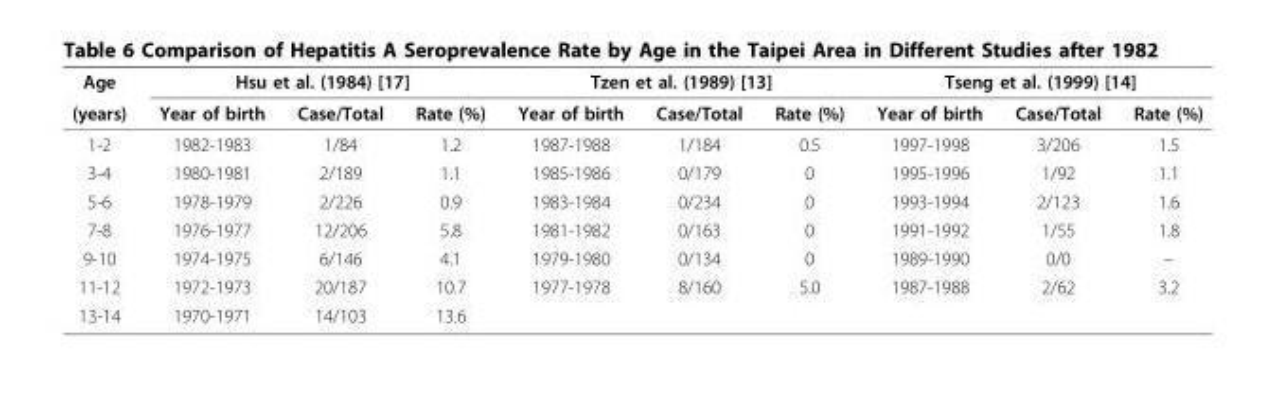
<table><thead><tr><td rowspan="2">Age (years)</td><td colspan="3">Hsu et al. (1984) [17]</td><td colspan="3">Tzen et al. (1989) [13]</td><td colspan="3">Tseng et al. (1999) [14]</td></tr><tr><td>Year of birth</td><td>Case/Total</td><td>Rate (%)</td><td>Year of birth</td><td>Case/Total</td><td>Rate (%)</td><td>Year of birth</td><td>Case/Total</td><td>Rate (%)</td></tr></thead><tbody><tr><td>1-2</td><td>1982-1983</td><td>1/84</td><td>1.2</td><td>1987-1988</td><td>1/184</td><td>0.5</td><td>1997-1998</td><td>3/206</td><td>1.5</td></tr><tr><td>3-4</td><td>1980-1981</td><td>2/189</td><td>1.1</td><td>1985-1986</td><td>0/179</td><td>0</td><td>1995-1996</td><td>1/92</td><td>1.1</td></tr><tr><td>5-6</td><td>1978-1979</td><td>2/226</td><td>0.9</td><td>1983-1984</td><td>0/234</td><td>0</td><td>1993-1994</td><td>2/123</td><td>1.6</td></tr><tr><td>7-8</td><td>1976-1977</td><td>12/206</td><td>5.8</td><td>1981-1982</td><td>0/163</td><td>0</td><td>1991-1992</td><td>1/55</td><td>1.8</td></tr><tr><td>9-10</td><td>1974-1975</td><td>6/146</td><td>4.1</td><td>1979-1980</td><td>0/134</td><td>0</td><td>1989-1990</td><td>0/0</td><td>–</td></tr><tr><td>11-12</td><td>1972-1973</td><td>20/187</td><td>10.7</td><td>1977-1978</td><td>8/160</td><td>5.0</td><td>1987-1988</td><td>2/62</td><td>3.2</td></tr><tr><td>13-14</td><td>1970-1971</td><td>14/103</td><td>13.6</td><td></td><td></td><td></td><td></td><td></td><td></td></tr></tbody></table>